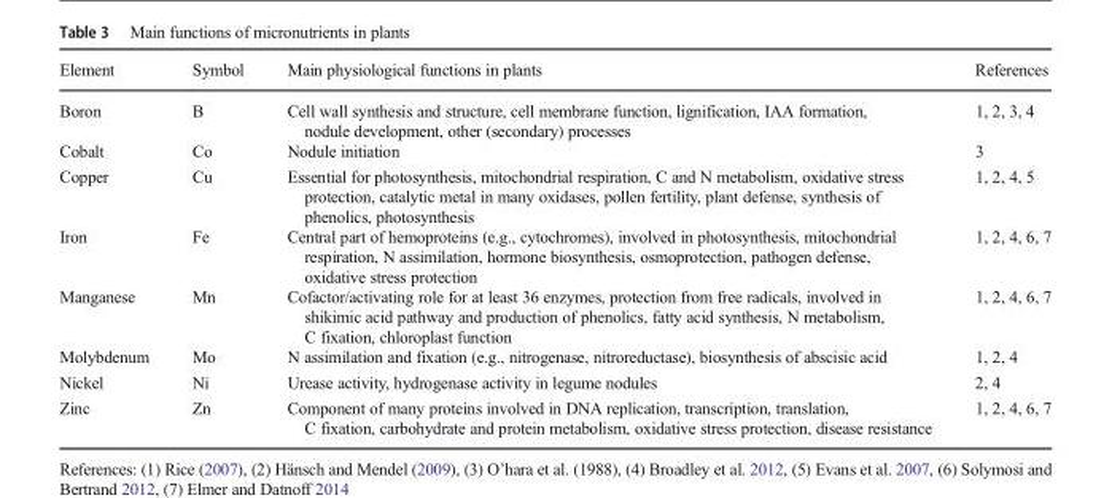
<table><thead><tr><td>Element</td><td>Symbol</td><td>Main physiological functions in plants</td><td>References</td></tr></thead><tbody><tr><td>Boron</td><td>B</td><td>Cell wall synthesis and structure, cell membrane function, lignification, IAA formation, nodule development, other (secondary) processes</td><td>1, 2, 3, 4</td></tr><tr><td>Cobalt</td><td>Co</td><td>Nodule initiation</td><td>3</td></tr><tr><td>Copper</td><td>Cu</td><td>Essential for photosynthesis, mitochondrial respiration, C and N metabolism, oxidative stress protection, catalytic metal in many oxidases, pollen fertility, plant defense, synthesis of phenolics, photosynthesis</td><td>1, 2, 4, 5</td></tr><tr><td>Iron</td><td>Fe</td><td>Central part of hemoproteins (e.g., cytochromes), involved in photosynthesis, mitochondrial respiration, N assimilation, hormone biosynthesis, osmoprotection, pathogen defense, oxidative stress protection</td><td>1, 2, 4, 6, 7</td></tr><tr><td>Manganese</td><td>Mn</td><td>Cofactor/activating role for at least 36 enzymes, protection from free radicals, involved in shikimic acid pathway and production of phenolics, fatty acid synthesis, N metabolism, C fixation, chloroplast function</td><td>1, 2, 4, 6, 7</td></tr><tr><td>Molybdenum</td><td>Mo</td><td>N assimilation and fixation (e.g., nitrogenase, nitroreductase), biosynthesis of abscisic acid</td><td>1, 2, 4</td></tr><tr><td>Nickel</td><td>Ni</td><td>Urease activity, hydrogenase activity in legume nodules</td><td>2, 4</td></tr><tr><td>Zinc</td><td>Zn</td><td>Component of many proteins involved in DNA replication, transcription, translation, C fixation, carbohydrate and protein metabolism, oxidative stress protection, disease resistance</td><td>1, 2, 4, 6, 7</td></tr></tbody></table>